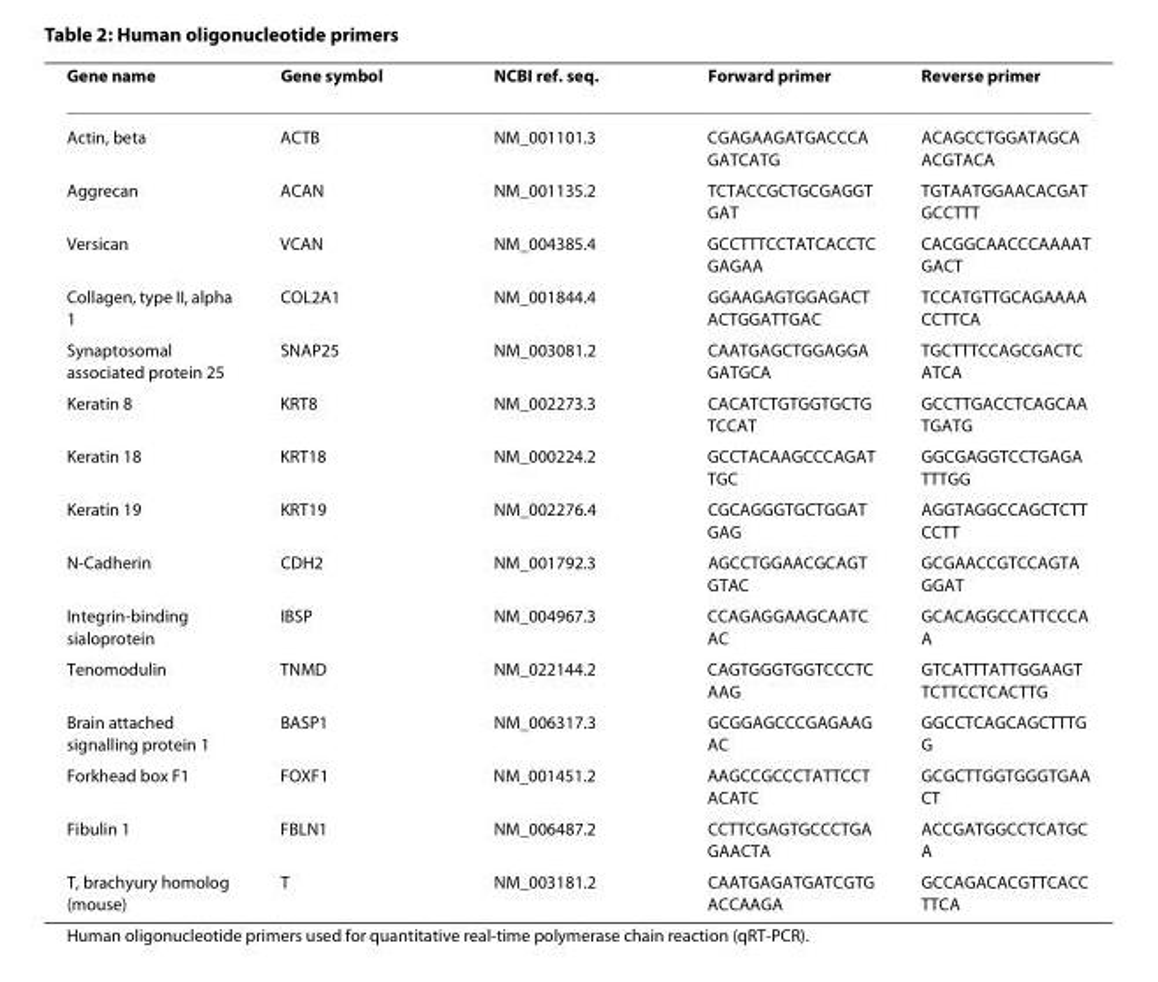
<table><thead><tr><td>Gene name</td><td>Gene symbol</td><td>NCBI ref. seq.</td><td>Forward primer</td><td>Reverse primer</td></tr></thead><tbody><tr><td>Actin, beta</td><td>ACTB</td><td>NM_001101.3</td><td>CGAGAAGATGACCCA GATCATG</td><td>ACAGCCTGGATAGCA ACGTACA</td></tr><tr><td>Aggrecan</td><td>ACAN</td><td>NM_001135.2</td><td>TCTACCGCTGCGAGGT GAT</td><td>TGTAATGGAACACGAT GCCTTT</td></tr><tr><td>Versican</td><td>VCAN</td><td>NM_004385.4</td><td>GCCTTTCCTATCACCTC GAGAA</td><td>CACGGCAACCCAAAAT GACT</td></tr><tr><td>Collagen, type II, alpha 1</td><td>COL2A1</td><td>NM_001844.4</td><td>GGAAGAGTGGAGACT ACTGGATTGAC</td><td>TCCATGTTGCAGAAAA CCTTCA</td></tr><tr><td>Synaptosomal associated protein 25</td><td>SNAP25</td><td>NM_003081.2</td><td>CAATGAGCTGGAGGA GATGCA</td><td>TGCTTTCCAGCGACTC ATCA</td></tr><tr><td>Keratin 8</td><td>KRT8</td><td>NM_002273.3</td><td>CACATCTGTGGTGCTG TCCAT</td><td>GCCTTGACCTCAGCAA TGATG</td></tr><tr><td>Keratin 18</td><td>KRT18</td><td>NM_000224.2</td><td>GCCTACAAGCCCAGAT TGC</td><td>GGCGAGGTCCTGAGA TTTGG</td></tr><tr><td>Keratin 19</td><td>KRT19</td><td>NM_002276.4</td><td>CGCAGGGTGCTGGAT GAG</td><td>AGGTAGGCCAGCTCTT CCTT</td></tr><tr><td>N-Cadherin</td><td>CDH2</td><td>NM_001792.3</td><td>AGCCTGGAACGCAGT GTAC</td><td>GCGAACCGTCCAGTA GGAT</td></tr><tr><td>Integrin-binding sialoprotein</td><td>IBSP</td><td>NM_004967.3</td><td>CCAGAGGAAGCAATC AC</td><td>GCACAGGCCATTCCCA A</td></tr><tr><td>Tenomodulin</td><td>TNMD</td><td>NM_022144.2</td><td>CAGTGGGTGGTCCCTC AAG</td><td>GTCATTTATTGGAAGT TCTTCCTCACTTG</td></tr><tr><td>Brain attached signalling protein 1</td><td>BASP1</td><td>NM_006317.3</td><td>GCGGAGCCCGAGAAG AC</td><td>GGCCTCAGCAGCTTTG G</td></tr><tr><td>Forkhead box F1</td><td>FOXF1</td><td>NM_001451.2</td><td>AAGCCGCCCTATTCCT ACATC</td><td>GCGCTTGGTGGGTGAA CT</td></tr><tr><td>Fibulin 1</td><td>FBLN1</td><td>NM_006487.2</td><td>CCTTCGAGTGCCCTGA GAACTA</td><td>ACCGATGGCCTCATGC A</td></tr><tr><td>T, brachyury homolog (mouse)</td><td>T</td><td>NM_003181.2</td><td>CAATGAGATGATCGTG ACCAAGA</td><td>GCCAGACACGTTCACC TTCA</td></tr></tbody></table>